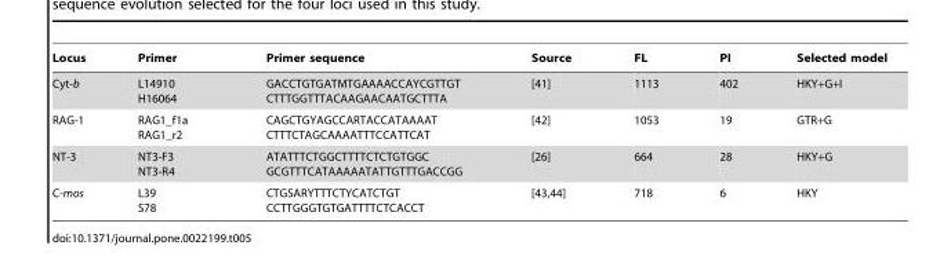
<table><thead><tr><td>Locus</td><td>Primer</td><td>Primer sequence</td><td>Source</td><td>FL</td><td>PI</td><td>Selected model</td></tr></thead><tbody><tr><td>Cyt-b</td><td>L14910 H16064</td><td>GACCTGTGATMTGAAAACCAYCGTTGT CTTTGGTTTACAAGAACAATGCTTTA</td><td>[41]</td><td>1113</td><td>402</td><td>HKY+G+I</td></tr><tr><td>RAG-1</td><td>RAG1_f1a RAG1_r2</td><td>CAGCTGYAGCCARTACCATAAAAT CTTTCTAGCAAAATTTCCATTCAT</td><td>[42]</td><td>1053</td><td>19</td><td>GTR+G</td></tr><tr><td>NT-3</td><td>NT3-F3 NT3-R4</td><td>ATATTTCTGGCTTTTCTCTGTGGC GCGTTTCATAAAAATATTGTTTGACCGG</td><td>[26]</td><td>664</td><td>28</td><td>HKY+G</td></tr><tr><td>C-mos</td><td>L39 S78</td><td>CTGSARYTTTCTYCATCTGT CCTTGGGTGTGATTTTCTCACCT</td><td>[43,44]</td><td>718</td><td>6</td><td>HKY</td></tr></tbody></table>